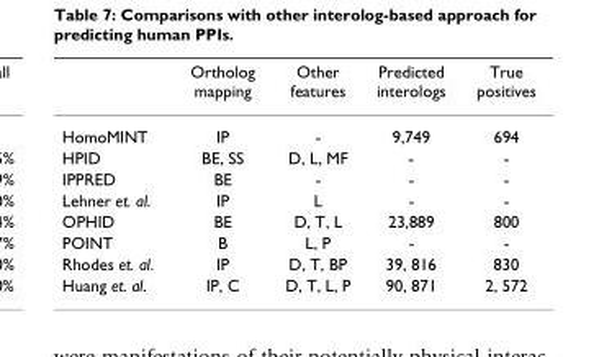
<table><thead><tr><td></td><td>Ortholog mapping</td><td>Other features</td><td>Predicted interologs</td><td>True positives</td></tr></thead><tbody><tr><td>HomoMINT</td><td>IP</td><td>-</td><td>9,749</td><td>694</td></tr><tr><td>HPID</td><td>BE, SS</td><td>D, L, MF</td><td>-</td><td>-</td></tr><tr><td>IPPRED</td><td>BE</td><td>-</td><td>-</td><td>-</td></tr><tr><td>Lehner et. al.</td><td>IP</td><td>L</td><td>-</td><td>-</td></tr><tr><td>OPHID</td><td>BE</td><td>D, T, L</td><td>23,889</td><td>800</td></tr><tr><td>POINT</td><td>B</td><td>L, P</td><td>-</td><td>-</td></tr><tr><td>Rhodes et. al.</td><td>IP</td><td>D, T, BP</td><td>39, 816</td><td>830</td></tr><tr><td>Huang et. al.</td><td>IP, C</td><td>D, T, L, P</td><td>90, 871</td><td>2, 572</td></tr></tbody></table>